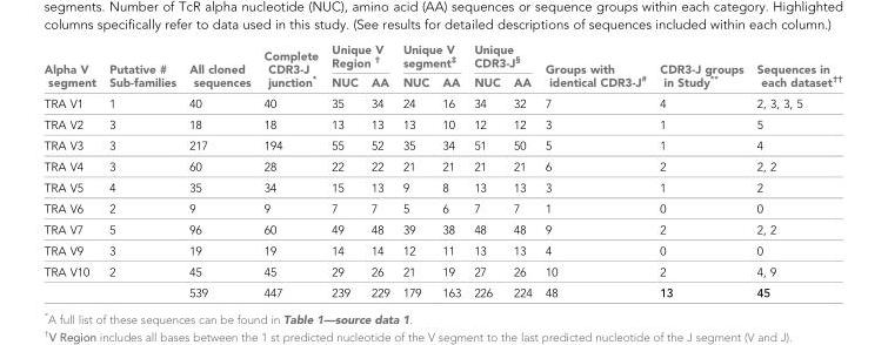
<table><thead><tr><td rowspan="2">Alpha V segment</td><td rowspan="2">Putative # Sub-families</td><td rowspan="2">All cloned sequences</td><td rowspan="2">Complete CDR3-J junction*</td><td colspan="2">Unique V Region <sup>†</sup></td><td colspan="2">Unique V segment<sup>‡</sup></td><td colspan="2">Unique CDR3-J<sup>§</sup></td><td rowspan="2">Groups with identical CDR3-J<sup>#</sup></td><td rowspan="2">CDR3-J groups in Study**</td><td rowspan="2">Sequences in each dataset<sup>††</sup></td></tr><tr><td>NUC</td><td>AA</td><td>NUC</td><td>AA</td><td>NUC</td><td>AA</td></tr></thead><tbody><tr><td>TRA V1</td><td>1</td><td>40</td><td>40</td><td>35</td><td>34</td><td>24</td><td>16</td><td>34</td><td>32</td><td>7</td><td>4</td><td>2, 3, 3, 5</td></tr><tr><td>TRA V2</td><td>3</td><td>18</td><td>18</td><td>13</td><td>13</td><td>13</td><td>10</td><td>12</td><td>12</td><td>3</td><td>1</td><td>5</td></tr><tr><td>TRA V3</td><td>3</td><td>217</td><td>194</td><td>55</td><td>52</td><td>35</td><td>34</td><td>51</td><td>50</td><td>5</td><td>1</td><td>4</td></tr><tr><td>TRA V4</td><td>3</td><td>60</td><td>28</td><td>22</td><td>22</td><td>21</td><td>21</td><td>21</td><td>21</td><td>6</td><td>2</td><td>2, 2</td></tr><tr><td>TRA V5</td><td>4</td><td>35</td><td>34</td><td>15</td><td>13</td><td>9</td><td>8</td><td>13</td><td>13</td><td>3</td><td>1</td><td>2</td></tr><tr><td>TRA V6</td><td>2</td><td>9</td><td>9</td><td>7</td><td>7</td><td>5</td><td>6</td><td>7</td><td>7</td><td>1</td><td>0</td><td>0</td></tr><tr><td>TRA V7</td><td>5</td><td>96</td><td>60</td><td>49</td><td>48</td><td>39</td><td>38</td><td>48</td><td>48</td><td>9</td><td>2</td><td>2, 2</td></tr><tr><td>TRA V9</td><td>3</td><td>19</td><td>19</td><td>14</td><td>14</td><td>12</td><td>11</td><td>13</td><td>13</td><td>4</td><td>0</td><td>0</td></tr><tr><td rowspan="2">TRA V10</td><td>2</td><td>45</td><td>45</td><td>29</td><td>26</td><td>21</td><td>19</td><td>27</td><td>26</td><td>10</td><td>2</td><td>4, 9</td></tr><tr><td></td><td>539</td><td>447</td><td>239</td><td>229</td><td>179</td><td>163</td><td>226</td><td>224</td><td>48</td><td>13</td><td>45</td></tr></tbody></table>